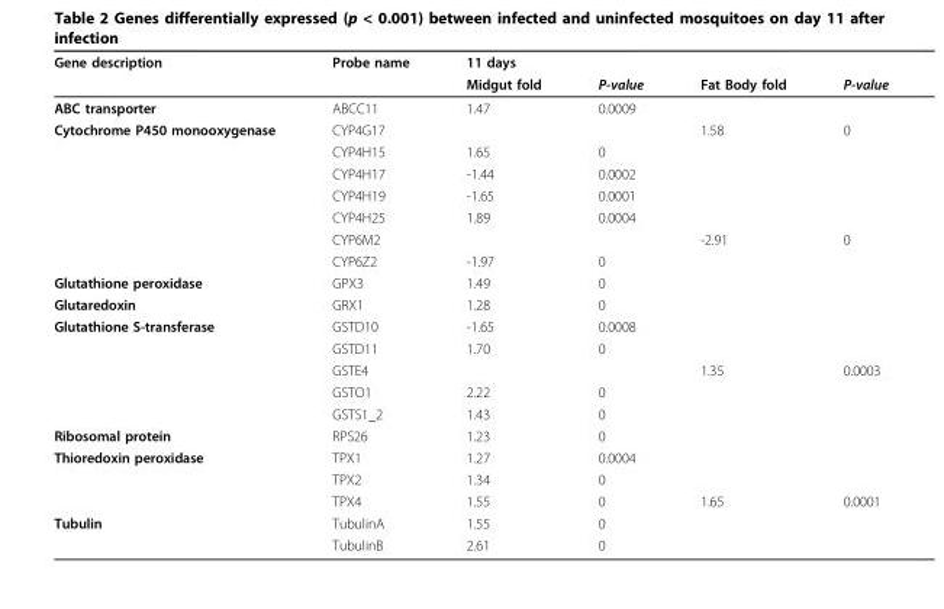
<table><thead><tr><td rowspan="2">Gene description</td><td rowspan="2">Probe name</td><td colspan="4">11 days</td></tr><tr><td>Midgut fold</td><td>P-value</td><td>Fat Body fold</td><td>P-value</td></tr></thead><tbody><tr><td>ABC transporter</td><td>ABCC11</td><td>1.47</td><td>0.0009</td><td></td><td></td></tr><tr><td rowspan="7">Cytochrome P450 monooxygenase</td><td>CYP4G17</td><td></td><td></td><td>1.58</td><td>0</td></tr><tr><td>CYP4H15</td><td>1.65</td><td>0</td><td></td><td></td></tr><tr><td>CYP4H17</td><td>-1.44</td><td>0.0002</td><td></td><td></td></tr><tr><td>CYP4H19</td><td>-1.65</td><td>0.0001</td><td></td><td></td></tr><tr><td>CYP4H25</td><td>1.89</td><td>0.0004</td><td></td><td></td></tr><tr><td>CYP6M2</td><td></td><td></td><td>-2.91</td><td>0</td></tr><tr><td>CYP6Z2</td><td>-1.97</td><td>0</td><td></td><td></td></tr><tr><td>Glutathione peroxidase</td><td>GPX3</td><td>1.49</td><td>0</td><td></td><td></td></tr><tr><td>Glutaredoxin</td><td>GRX1</td><td>1.28</td><td>0</td><td></td><td></td></tr><tr><td rowspan="5">Glutathione S-transferase</td><td>GSTD10</td><td>-1.65</td><td>0.0008</td><td></td><td></td></tr><tr><td>GSTD11</td><td>1.70</td><td>0</td><td></td><td></td></tr><tr><td>GSTE4</td><td></td><td></td><td>1.35</td><td>0.0003</td></tr><tr><td>GSTO1</td><td>2.22</td><td>0</td><td></td><td></td></tr><tr><td>GSTS1_2</td><td>1.43</td><td>0</td><td></td><td></td></tr><tr><td>Ribosomal protein</td><td>RPS26</td><td>1.23</td><td>0</td><td></td><td></td></tr><tr><td rowspan="3">Thioredoxin peroxidase</td><td>TPX1</td><td>1.27</td><td>0.0004</td><td></td><td></td></tr><tr><td>TPX2</td><td>1.34</td><td>0</td><td></td><td></td></tr><tr><td>TPX4</td><td>1.55</td><td>0</td><td>1.65</td><td>0.0001</td></tr><tr><td rowspan="2">Tubulin</td><td>TubulinA</td><td>1.55</td><td>0</td><td></td><td></td></tr><tr><td>TubulinB</td><td>2.61</td><td>0</td><td></td><td></td></tr></tbody></table>